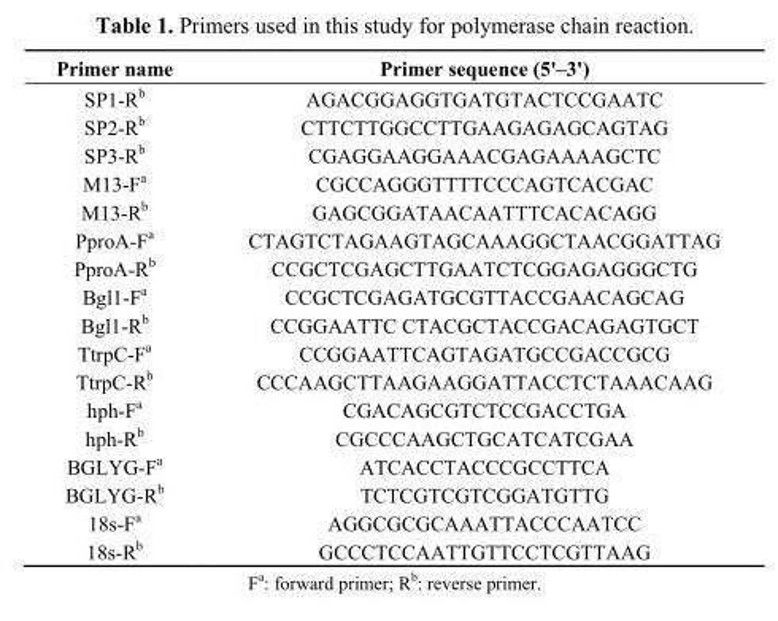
<table><thead><tr><td>Primer name</td><td>Primer sequence (5&#x27;–3&#x27;)</td></tr></thead><tbody><tr><td>SP1-R<sup>b</sup></td><td>AGACGGAGGTGATGTACTCCGAATC</td></tr><tr><td>SP2-R<sup>b</sup></td><td>CTTCTTGGCCTTGAAGAGAGCAGTAG</td></tr><tr><td>SP3-R<sup>b</sup></td><td>CGAGGAAGGAAACGAGAAAAGCTC</td></tr><tr><td>M13-F<sup>a</sup></td><td>CGCCAGGGTTTTCCCAGTCACGAC</td></tr><tr><td>M13-R<sup>b</sup></td><td>GAGCGGATAACAATTTCACACAGG</td></tr><tr><td>PproA-F<sup>a</sup></td><td>CTAGTCTAGAAGTAGCAAAGGCTAACGGATTAG</td></tr><tr><td>PproA-R<sup>b</sup></td><td>CCGCTCGAGCTTGAATCTCGGAGAGGGCTG</td></tr><tr><td>Bgl1-F<sup>a</sup></td><td>CCGCTCGAGATGCGTTACCGAACAGCAG</td></tr><tr><td>Bgl1-R<sup>b</sup></td><td>CCGGAATTC CTACGCTACCGACAGAGTGCT</td></tr><tr><td>TtrpC-F<sup>a</sup></td><td>CCGGAATTCAGTAGATGCCGACCGCG</td></tr><tr><td>TtrpC-R<sup>b</sup></td><td>CCCAAGCTTAAGAAGGATTACCTCTAAACAAG</td></tr><tr><td>hph-F<sup>a</sup></td><td>CGACAGCGTCTCCGACCTGA</td></tr><tr><td>hph-R<sup>b</sup></td><td>CGCCCAAGCTGCATCATCGAA</td></tr><tr><td>BGLYG-F<sup>a</sup></td><td>ATCACCTACCCGCCTTCA</td></tr><tr><td>BGLYG-R<sup>b</sup></td><td>TCTCGTCGTCGGATGTTG</td></tr><tr><td>18s-F<sup>a</sup></td><td>AGGCGCGCAAATTACCCAATCC</td></tr><tr><td>18s-R<sup>b</sup></td><td>GCCCTCCAATTGTTCCTCGTTAAG</td></tr></tbody></table>